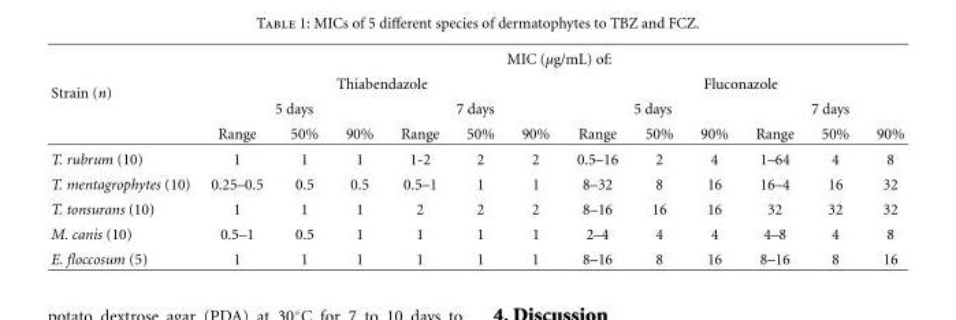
<table><thead><tr><td rowspan="4">Strain (n)</td><td colspan="12">MIC (µg/mL) of:</td></tr><tr><td colspan="6">Thiabendazole</td><td colspan="6">Fluconazole</td></tr><tr><td colspan="3">5 days</td><td colspan="3">7 days</td><td colspan="3">5 days</td><td colspan="3">7 days</td></tr><tr><td>Range</td><td>50%</td><td>90%</td><td>Range</td><td>50%</td><td>90%</td><td>Range</td><td>50%</td><td>90%</td><td>Range</td><td>50%</td><td>90%</td></tr></thead><tbody><tr><td>T. rubrum (10)</td><td>1</td><td>1</td><td>1</td><td>1-2</td><td>2</td><td>2</td><td>0.5–16</td><td>2</td><td>4</td><td>1–64</td><td>4</td><td>8</td></tr><tr><td>T. mentagrophytes (10)</td><td>0.25–0.5</td><td>0.5</td><td>0.5</td><td>0.5–1</td><td>1</td><td>1</td><td>8–32</td><td>8</td><td>16</td><td>16–4</td><td>16</td><td>32</td></tr><tr><td>T. tonsurans (10)</td><td>1</td><td>1</td><td>1</td><td>2</td><td>2</td><td>2</td><td>8–16</td><td>16</td><td>16</td><td>32</td><td>32</td><td>32</td></tr><tr><td>M. canis (10)</td><td>0.5–1</td><td>0.5</td><td>1</td><td>1</td><td>1</td><td>1</td><td>2–4</td><td>4</td><td>4</td><td>4–8</td><td>4</td><td>8</td></tr><tr><td>E. floccosum (5)</td><td>1</td><td>1</td><td>1</td><td>1</td><td>1</td><td>1</td><td>8–16</td><td>8</td><td>16</td><td>8–16</td><td>8</td><td>16</td></tr></tbody></table>